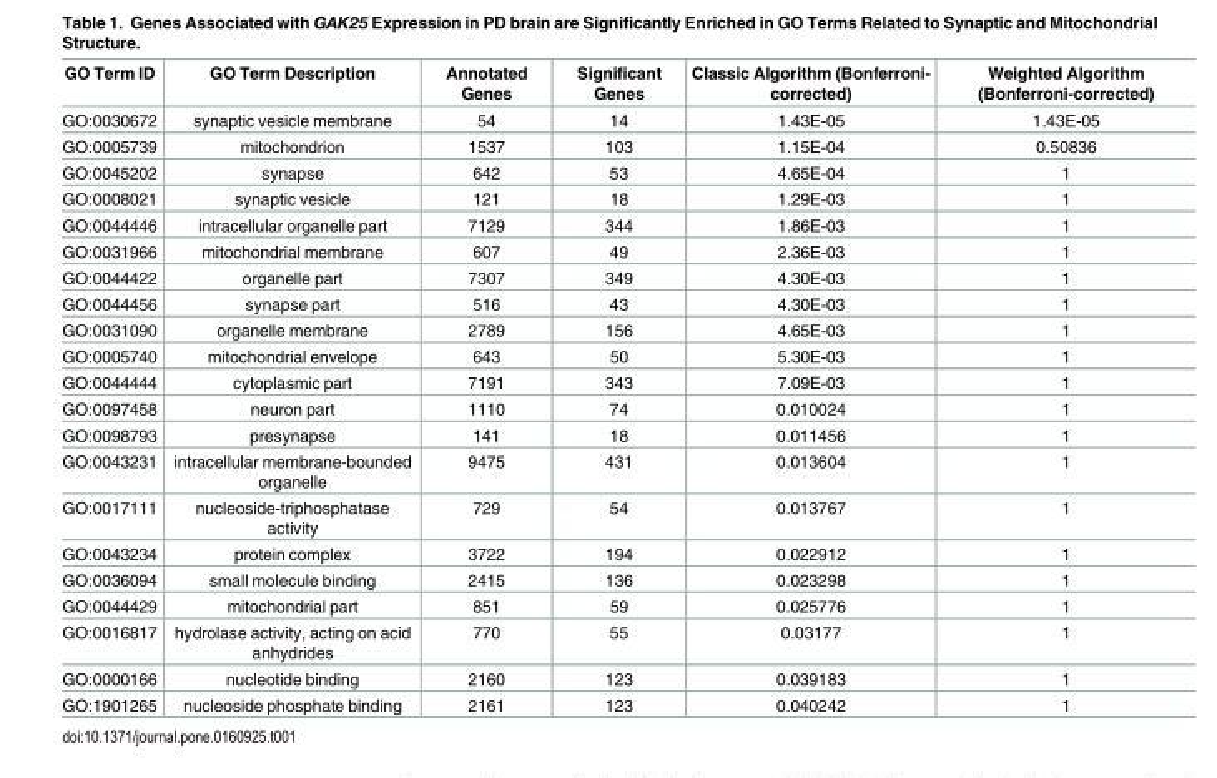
<table><thead><tr><td>GO Term ID</td><td>GO Term Description</td><td>Annotated Genes</td><td>Significant Genes</td><td>Classic Algorithm (Bonferroni- corrected)</td><td>Weighted Algorithm (Bonferroni-corrected)</td></tr></thead><tbody><tr><td>GO:0030672</td><td>synaptic vesicle membrane</td><td>54</td><td>14</td><td>1.43E-05</td><td>1.43E-05</td></tr><tr><td>GO:0005739</td><td>mitochondrion</td><td>1537</td><td>103</td><td>1.15E-04</td><td>0.50836</td></tr><tr><td>GO:0045202</td><td>synapse</td><td>642</td><td>53</td><td>4.65E-04</td><td>1</td></tr><tr><td>GO:0008021</td><td>synaptic vesicle</td><td>121</td><td>18</td><td>1.29E-03</td><td>1</td></tr><tr><td>GO:0044446</td><td>intracellular organelle part</td><td>7129</td><td>344</td><td>1.86E-03</td><td>1</td></tr><tr><td>GO:0031966</td><td>mitochondrial membrane</td><td>607</td><td>49</td><td>2.36E-03</td><td>1</td></tr><tr><td>GO:0044422</td><td>organelle part</td><td>7307</td><td>349</td><td>4.30E-03</td><td>1</td></tr><tr><td>GO:0044456</td><td>synapse part</td><td>516</td><td>43</td><td>4.30E-03</td><td>1</td></tr><tr><td>GO:0031090</td><td>organelle membrane</td><td>2789</td><td>156</td><td>4.65E-03</td><td>1</td></tr><tr><td>GO:0005740</td><td>mitochondrial envelope</td><td>643</td><td>50</td><td>5.30E-03</td><td>1</td></tr><tr><td>GO:0044444</td><td>cytoplasmic part</td><td>7191</td><td>343</td><td>7.09E-03</td><td>1</td></tr><tr><td>GO:0097458</td><td>neuron part</td><td>1110</td><td>74</td><td>0.010024</td><td>1</td></tr><tr><td>GO:0098793</td><td>presynapse</td><td>141</td><td>18</td><td>0.011456</td><td>1</td></tr><tr><td>GO:0043231</td><td>intracellular membrane-bounded organelle</td><td>9475</td><td>431</td><td>0.013604</td><td>1</td></tr><tr><td>GO:0017111</td><td>nucleoside-triphosphatase activity</td><td>729</td><td>54</td><td>0.013767</td><td>1</td></tr><tr><td>GO:0043234</td><td>protein complex</td><td>3722</td><td>194</td><td>0.022912</td><td>1</td></tr><tr><td>GO:0036094</td><td>small molecule binding</td><td>2415</td><td>136</td><td>0.023298</td><td>1</td></tr><tr><td>GO:0044429</td><td>mitochondrial part</td><td>851</td><td>59</td><td>0.025776</td><td>1</td></tr><tr><td>GO:0016817</td><td>hydrolase activity, acting on acid anhydrides</td><td>770</td><td>55</td><td>0.03177</td><td>1</td></tr><tr><td>GO:0000166</td><td>nucleotide binding</td><td>2160</td><td>123</td><td>0.039183</td><td>1</td></tr><tr><td>GO:1901265</td><td>nucleoside phosphate binding</td><td>2161</td><td>123</td><td>0.040242</td><td>1</td></tr></tbody></table>